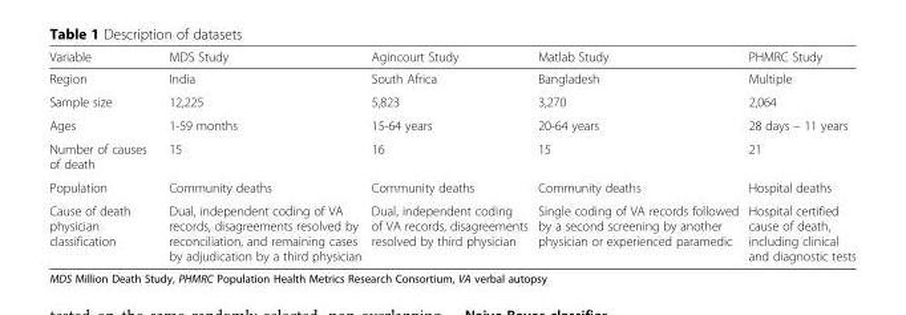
<table><thead><tr><td>Variable</td><td>MDS Study</td><td>Agincourt Study</td><td>Matlab Study</td><td>PHMRC Study</td></tr></thead><tbody><tr><td>Region</td><td>India</td><td>South Africa</td><td>Bangladesh</td><td>Multiple</td></tr><tr><td>Sample size</td><td>12,225</td><td>5,823</td><td>3,270</td><td>2,064</td></tr><tr><td>Ages</td><td>1-59 months</td><td>15-64 years</td><td>20-64 years</td><td>28 days – 11 years</td></tr><tr><td>Number of causes of death</td><td>15</td><td>16</td><td>15</td><td>21</td></tr><tr><td>Population</td><td>Community deaths</td><td>Community deaths</td><td>Community deaths</td><td>Hospital deaths</td></tr><tr><td>Cause of death physician classification</td><td>Dual, independent coding of VA records, disagreements resolved by reconciliation, and remaining cases by adjudication by a third physician</td><td>Dual, independent coding of VA records, disagreements resolved by third physician</td><td>Single coding of VA records followed by a second screening by another physician or experienced paramedic</td><td>Hospital certified cause of death, including clinical and diagnostic tests</td></tr></tbody></table>